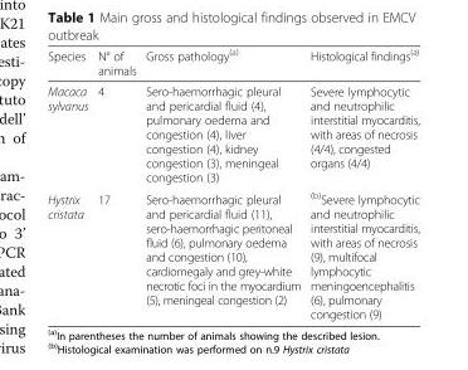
<table><thead><tr><td>Species</td><td>N° of animals</td><td>Gross pathology<sup>(a)</sup></td><td>Histological findings<sup>(a)</sup></td></tr></thead><tbody><tr><td>Macaca sylvanus</td><td>4</td><td>Sero-haemorrhagic pleural and pericardial fluid (4), pulmonary oedema and congestion (4), liver congestion (4), kidney congestion (3), meningeal congestion (3)</td><td>Severe lymphocytic and neutrophilic interstitial myocarditis, with areas of necrosis (4/4), congested organs (4/4)</td></tr><tr><td>Hystrix cristata</td><td>17</td><td>Sero-haemorrhagic pleural and pericardial fluid (11), sero-haemorrhagic peritoneal fluid (6), pulmonary oedema and congestion (10), cardiomegaly and grey-white necrotic foci in the myocardium (5), meningeal congestion (2)</td><td><sup>(b)</sup>Severe lymphocytic and neutrophilic interstitial myocarditis, with areas of necrosis (9), multifocal lymphocytic meningoencephalitis (6), pulmonary congestion (9)</td></tr></tbody></table>